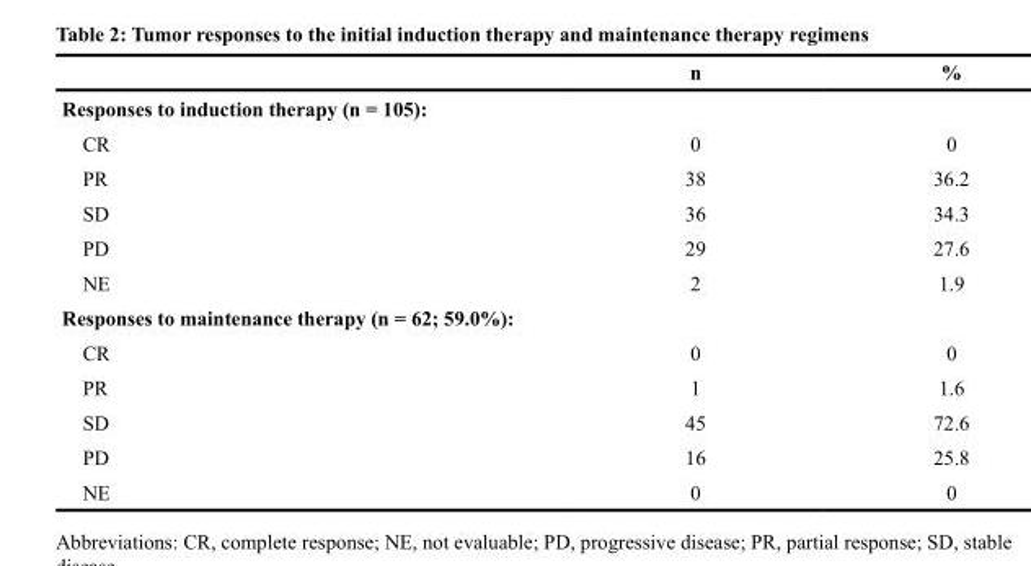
<table><thead><tr><td></td><td>n</td><td>%</td></tr></thead><tbody><tr><td colspan="3">Responses to induction therapy (n = 105):</td></tr><tr><td>CR</td><td>0</td><td>0</td></tr><tr><td>PR</td><td>38</td><td>36.2</td></tr><tr><td>SD</td><td>36</td><td>34.3</td></tr><tr><td>PD</td><td>29</td><td>27.6</td></tr><tr><td>NE</td><td>2</td><td>1.9</td></tr><tr><td colspan="3">Responses to maintenance therapy (n = 62; 59.0%):</td></tr><tr><td>CR</td><td>0</td><td>0</td></tr><tr><td>PR</td><td>1</td><td>1.6</td></tr><tr><td>SD</td><td>45</td><td>72.6</td></tr><tr><td>PD</td><td>16</td><td>25.8</td></tr><tr><td>NE</td><td>0</td><td>0</td></tr></tbody></table>